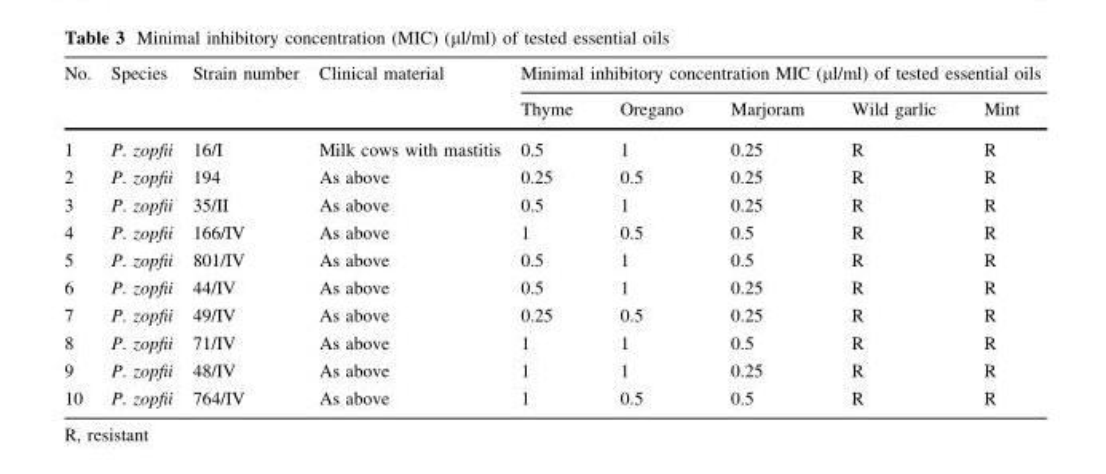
<table><thead><tr><td rowspan="2">No.</td><td rowspan="2">Species</td><td rowspan="2">Strain number</td><td rowspan="2">Clinical material</td><td colspan="5">Minimal inhibitory concentration MIC (μl/ml) of tested essential oils</td></tr><tr><td>Thyme</td><td>Oregano</td><td>Marjoram</td><td>Wild garlic</td><td>Mint</td></tr></thead><tbody><tr><td>1</td><td>P. zopfii</td><td>16/I</td><td>Milk cows with mastitis</td><td>0.5</td><td>1</td><td>0.25</td><td>R</td><td>R</td></tr><tr><td>2</td><td>P. zopfii</td><td>194</td><td>As above</td><td>0.25</td><td>0.5</td><td>0.25</td><td>R</td><td>R</td></tr><tr><td>3</td><td>P. zopfii</td><td>35/II</td><td>As above</td><td>0.5</td><td>1</td><td>0.25</td><td>R</td><td>R</td></tr><tr><td>4</td><td>P. zopfii</td><td>166/IV</td><td>As above</td><td>1</td><td>0.5</td><td>0.5</td><td>R</td><td>R</td></tr><tr><td>5</td><td>P. zopfii</td><td>801/IV</td><td>As above</td><td>0.5</td><td>1</td><td>0.5</td><td>R</td><td>R</td></tr><tr><td>6</td><td>P. zopfii</td><td>44/IV</td><td>As above</td><td>0.5</td><td>1</td><td>0.25</td><td>R</td><td>R</td></tr><tr><td>7</td><td>P. zopfii</td><td>49/IV</td><td>As above</td><td>0.25</td><td>0.5</td><td>0.25</td><td>R</td><td>R</td></tr><tr><td>8</td><td>P. zopfii</td><td>71/IV</td><td>As above</td><td>1</td><td>1</td><td>0.5</td><td>R</td><td>R</td></tr><tr><td>9</td><td>P. zopfii</td><td>48/IV</td><td>As above</td><td>1</td><td>1</td><td>0.25</td><td>R</td><td>R</td></tr><tr><td>10</td><td>P. zopfii</td><td>764/IV</td><td>As above</td><td>1</td><td>0.5</td><td>0.5</td><td>R</td><td>R</td></tr></tbody></table>